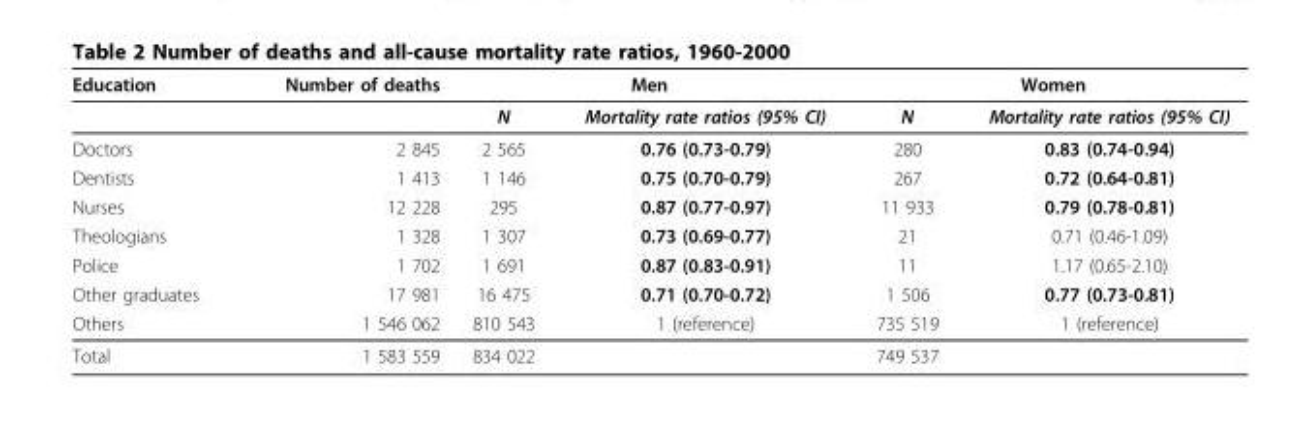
<table><thead><tr><td rowspan="2">Education</td><td rowspan="2">Number of deaths</td><td colspan="2">Men</td><td colspan="2">Women</td></tr><tr><td>N</td><td>Mortality rate ratios (95% CI)</td><td>N</td><td>Mortality rate ratios (95% CI)</td></tr></thead><tbody><tr><td>Doctors</td><td>2 845</td><td>2 565</td><td>0.76 (0.73-0.79)</td><td>280</td><td>0.83 (0.74-0.94)</td></tr><tr><td>Dentists</td><td>1 413</td><td>1 146</td><td>0.75 (0.70-0.79)</td><td>267</td><td>0.72 (0.64-0.81)</td></tr><tr><td>Nurses</td><td>12 228</td><td>295</td><td>0.87 (0.77-0.97)</td><td>11 933</td><td>0.79 (0.78-0.81)</td></tr><tr><td>Theologians</td><td>1 328</td><td>1 307</td><td>0.73 (0.69-0.77)</td><td>21</td><td>0.71 (0.46-1.09)</td></tr><tr><td>Police</td><td>1 702</td><td>1 691</td><td>0.87 (0.83-0.91)</td><td>11</td><td>1.17 (0.65-2.10)</td></tr><tr><td>Other graduates</td><td>17 981</td><td>16 475</td><td>0.71 (0.70-0.72)</td><td>1 506</td><td>0.77 (0.73-0.81)</td></tr><tr><td>Others</td><td>1 546 062</td><td>810 543</td><td>1 (reference)</td><td>735 519</td><td>1 (reference)</td></tr><tr><td>Total</td><td>1 583 559</td><td>834 022</td><td></td><td>749 537</td><td></td></tr></tbody></table>